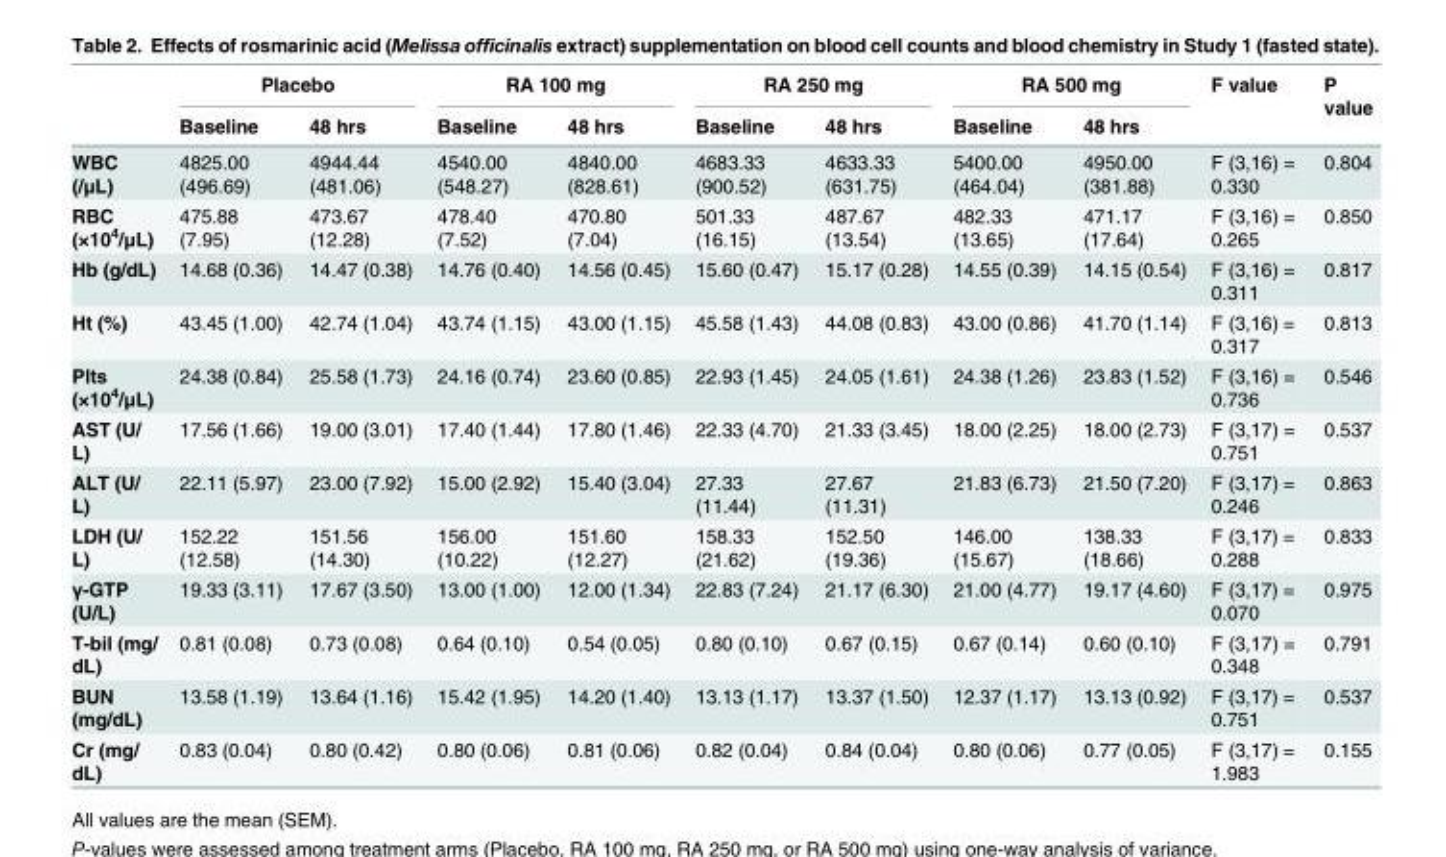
<table><thead><tr><td rowspan="2"></td><td colspan="2">Placebo</td><td colspan="2">RA 100 mg</td><td colspan="2">RA 250 mg</td><td colspan="2">RA 500 mg</td><td rowspan="2">F value</td><td rowspan="2">P value</td></tr><tr><td>Baseline</td><td>48 hrs</td><td>Baseline</td><td>48 hrs</td><td>Baseline</td><td>48 hrs</td><td>Baseline</td><td>48 hrs</td></tr></thead><tbody><tr><td>WBC (/μL)</td><td>4825.00 (496.69)</td><td>4944.44 (481.06)</td><td>4540.00 (548.27)</td><td>4840.00 (828.61)</td><td>4683.33 (900.52)</td><td>4633.33 (631.75)</td><td>5400.00 (464.04)</td><td>4950.00 (381.88)</td><td>F (3,16) = 0.330</td><td>0.804</td></tr><tr><td>RBC (×10<sup>4</sup>/μL)</td><td>475.88 (7.95)</td><td>473.67 (12.28)</td><td>478.40 (7.52)</td><td>470.80 (7.04)</td><td>501.33 (16.15)</td><td>487.67 (13.54)</td><td>482.33 (13.65)</td><td>471.17 (17.64)</td><td>F (3,16) = 0.265</td><td>0.850</td></tr><tr><td>Hb (g/dL)</td><td>14.68 (0.36)</td><td>14.47 (0.38)</td><td>14.76 (0.40)</td><td>14.56 (0.45)</td><td>15.60 (0.47)</td><td>15.17 (0.28)</td><td>14.55 (0.39)</td><td>14.15 (0.54)</td><td>F (3,16) = 0.311</td><td>0.817</td></tr><tr><td>Ht (%)</td><td>43.45 (1.00)</td><td>42.74 (1.04)</td><td>43.74 (1.15)</td><td>43.00 (1.15)</td><td>45.58 (1.43)</td><td>44.08 (0.83)</td><td>43.00 (0.86)</td><td>41.70 (1.14)</td><td>F (3,16) = 0.317</td><td>0.813</td></tr><tr><td>Plts (×10<sup>4</sup>/μL)</td><td>24.38 (0.84)</td><td>25.58 (1.73)</td><td>24.16 (0.74)</td><td>23.60 (0.85)</td><td>22.93 (1.45)</td><td>24.05 (1.61)</td><td>24.38 (1.26)</td><td>23.83 (1.52)</td><td>F (3,16) = 0.736</td><td>0.546</td></tr><tr><td>AST (U/ L)</td><td>17.56 (1.66)</td><td>19.00 (3.01)</td><td>17.40 (1.44)</td><td>17.80 (1.46)</td><td>22.33 (4.70)</td><td>21.33 (3.45)</td><td>18.00 (2.25)</td><td>18.00 (2.73)</td><td>F (3,17) = 0.751</td><td>0.537</td></tr><tr><td>ALT (U/ L)</td><td>22.11 (5.97)</td><td>23.00 (7.92)</td><td>15.00 (2.92)</td><td>15.40 (3.04)</td><td>27.33 (11.44)</td><td>27.67 (11.31)</td><td>21.83 (6.73)</td><td>21.50 (7.20)</td><td>F (3,17) = 0.246</td><td>0.863</td></tr><tr><td>LDH (U/ L)</td><td>152.22 (12.58)</td><td>151.56 (14.30)</td><td>156.00 (10.22)</td><td>151.60 (12.27)</td><td>158.33 (21.62)</td><td>152.50 (19.36)</td><td>146.00 (15.67)</td><td>138.33 (18.66)</td><td>F (3,17) = 0.288</td><td>0.833</td></tr><tr><td>γ-GTP (U/L)</td><td>19.33 (3.11)</td><td>17.67 (3.50)</td><td>13.00 (1.00)</td><td>12.00 (1.34)</td><td>22.83 (7.24)</td><td>21.17 (6.30)</td><td>21.00 (4.77)</td><td>19.17 (4.60)</td><td>F (3,17) = 0.070</td><td>0.975</td></tr><tr><td>T-bil (mg/ dL)</td><td>0.81 (0.08)</td><td>0.73 (0.08)</td><td>0.64 (0.10)</td><td>0.54 (0.05)</td><td>0.80 (0.10)</td><td>0.67 (0.15)</td><td>0.67 (0.14)</td><td>0.60 (0.10)</td><td>F (3,17) = 0.348</td><td>0.791</td></tr><tr><td>BUN (mg/dL)</td><td>13.58 (1.19)</td><td>13.64 (1.16)</td><td>15.42 (1.95)</td><td>14.20 (1.40)</td><td>13.13 (1.17)</td><td>13.37 (1.50)</td><td>12.37 (1.17)</td><td>13.13 (0.92)</td><td>F (3,17) = 0.751</td><td>0.537</td></tr><tr><td>Cr (mg/ dL)</td><td>0.83 (0.04)</td><td>0.80 (0.42)</td><td>0.80 (0.06)</td><td>0.81 (0.06)</td><td>0.82 (0.04)</td><td>0.84 (0.04)</td><td>0.80 (0.06)</td><td>0.77 (0.05)</td><td>F (3,17) = 1.983</td><td>0.155</td></tr></tbody></table>